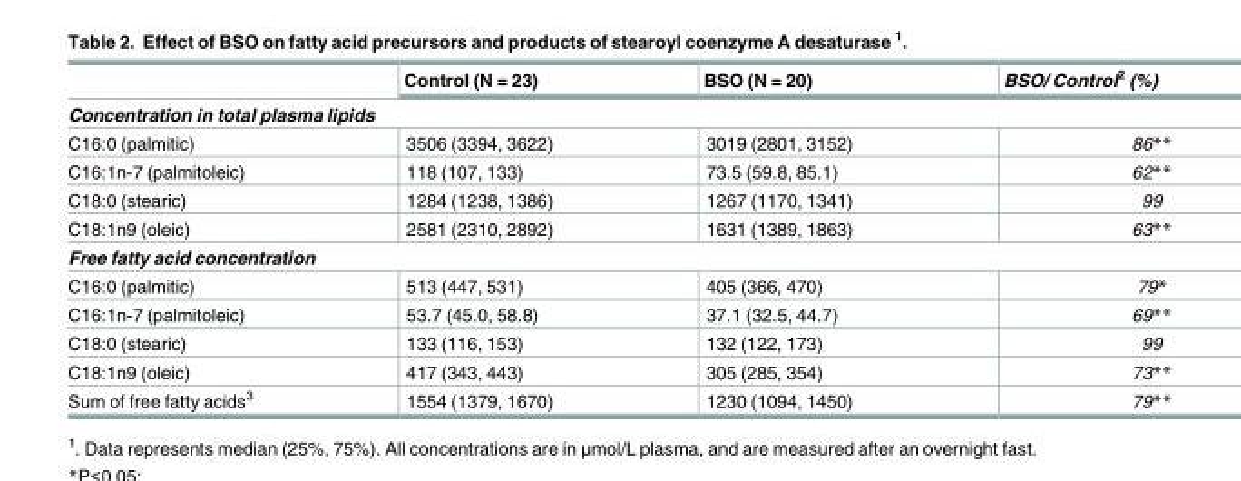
<table><thead><tr><td></td><td>Control (N = 23)</td><td>BSO (N = 20)</td><td>BSO/ Control<sup>2</sup> (%)</td></tr></thead><tbody><tr><td colspan="4">Concentration in total plasma lipids</td></tr><tr><td>C16:0 (palmitic)</td><td>3506 (3394, 3622)</td><td>3019 (2801, 3152)</td><td>86**</td></tr><tr><td>C16:1n-7 (palmitoleic)</td><td>118 (107, 133)</td><td>73.5 (59.8, 85.1)</td><td>62**</td></tr><tr><td>C18:0 (stearic)</td><td>1284 (1238, 1386)</td><td>1267 (1170, 1341)</td><td>99</td></tr><tr><td>C18:1n9 (oleic)</td><td>2581 (2310, 2892)</td><td>1631 (1389, 1863)</td><td>63**</td></tr><tr><td colspan="4">Free fatty acid concentration</td></tr><tr><td>C16:0 (palmitic)</td><td>513 (447, 531)</td><td>405 (366, 470)</td><td>79*</td></tr><tr><td>C16:1n-7 (palmitoleic)</td><td>53.7 (45.0, 58.8)</td><td>37.1 (32.5, 44.7)</td><td>69**</td></tr><tr><td>C18:0 (stearic)</td><td>133 (116, 153)</td><td>132 (122, 173)</td><td>99</td></tr><tr><td>C18:1n9 (oleic)</td><td>417 (343, 443)</td><td>305 (285, 354)</td><td>73**</td></tr><tr><td>Sum of free fatty acids<sup>3</sup></td><td>1554 (1379, 1670)</td><td>1230 (1094, 1450)</td><td>79**</td></tr></tbody></table>